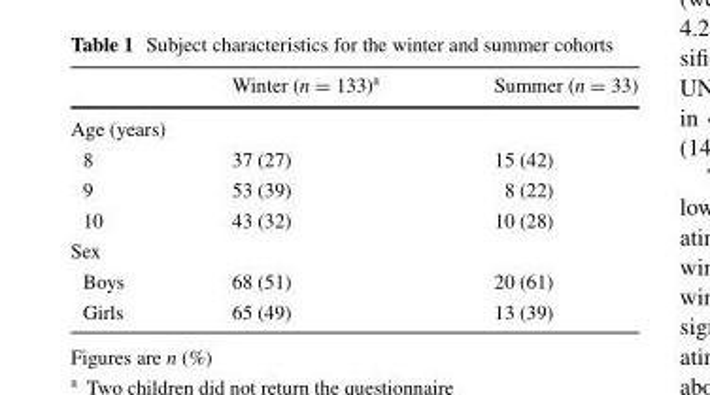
<table><thead><tr><td></td><td>Winter (n = 133)<sup>a</sup></td><td>Summer (n = 33)</td></tr></thead><tbody><tr><td colspan="3">Age (years)</td></tr><tr><td>8</td><td>37 (27)</td><td>15 (42)</td></tr><tr><td>9</td><td>53 (39)</td><td>8 (22)</td></tr><tr><td>10</td><td>43 (32)</td><td>10 (28)</td></tr><tr><td colspan="3">Sex</td></tr><tr><td>Boys</td><td>68 (51)</td><td>20 (61)</td></tr><tr><td>Girls</td><td>65 (49)</td><td>13 (39)</td></tr></tbody></table>